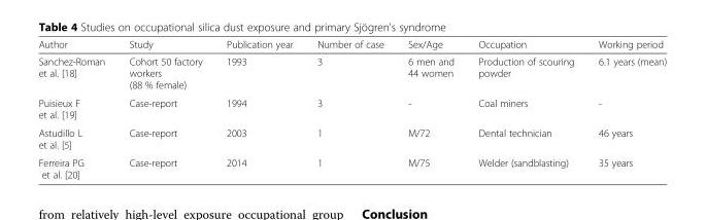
<table><thead><tr><td>Author</td><td>Study</td><td>Publication year</td><td>Number of case</td><td>Sex/Age</td><td>Occupation</td><td>Working period</td></tr></thead><tbody><tr><td>Sanchez-Roman et al. [18]</td><td>Cohort 50 factory workers (88 % female)</td><td>1993</td><td>3</td><td>6 men and 44 women</td><td>Production of scouring powder</td><td>6.1 years (mean)</td></tr><tr><td>Puisieux F et al. [19]</td><td>Case-report</td><td>1994</td><td>3</td><td>-</td><td>Coal miners</td><td>-</td></tr><tr><td>Astudillo L et al. [5]</td><td>Case-report</td><td>2003</td><td>1</td><td>M/72</td><td>Dental technician</td><td>46 years</td></tr><tr><td>Ferreira PG et al. [20]</td><td>Case-report</td><td>2014</td><td>1</td><td>M/75</td><td>Welder (sandblasting)</td><td>35 years</td></tr></tbody></table>